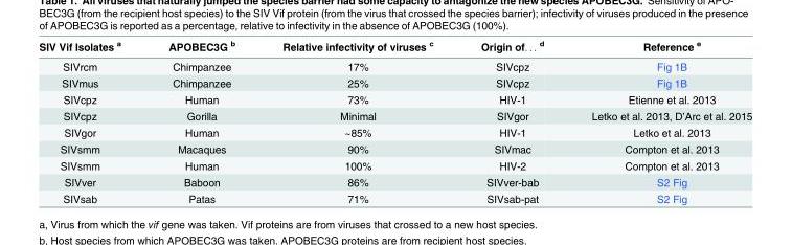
<table><thead><tr><td>SIV Vif Isolates <sup>a</sup></td><td>APOBEC3G <sup>b</sup></td><td>Relative infectivity of viruses <sup>c</sup></td><td>Origin of. . . <sup>d</sup></td><td>Reference <sup>e</sup></td></tr></thead><tbody><tr><td>SIVrcm</td><td>Chimpanzee</td><td>17%</td><td>SIVcpz</td><td>Fig 1B</td></tr><tr><td>SIVmus</td><td>Chimpanzee</td><td>25%</td><td>SIVcpz</td><td>Fig 1B</td></tr><tr><td>SIVcpz</td><td>Human</td><td>73%</td><td>HIV-1</td><td>Etienne et al. 2013</td></tr><tr><td>SIVcpz</td><td>Gorilla</td><td>Minimal</td><td>SIVgor</td><td>Letko et al. 2013, D’Arc et al. 2015</td></tr><tr><td>SIVgor</td><td>Human</td><td>~85%</td><td>HIV-1</td><td>Letko et al. 2013</td></tr><tr><td>SIVsmm</td><td>Macaques</td><td>90%</td><td>SIVmac</td><td>Compton et al. 2013</td></tr><tr><td>SIVsmm</td><td>Human</td><td>100%</td><td>HIV-2</td><td>Compton et al. 2013</td></tr><tr><td>SIVver</td><td>Baboon</td><td>86%</td><td>SIVver-bab</td><td>S2 Fig</td></tr><tr><td>SIVsab</td><td>Patas</td><td>71%</td><td>SIVsab-pat</td><td>S2 Fig</td></tr></tbody></table>